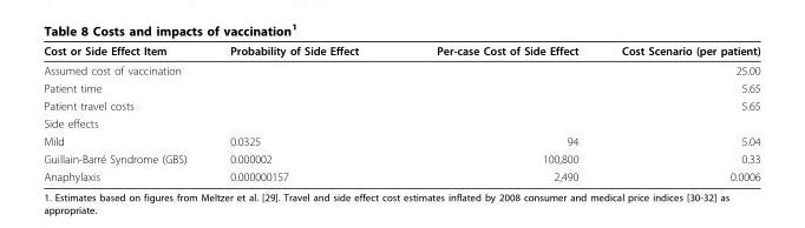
<table><thead><tr><td>Cost or Side Effect Item</td><td>Probability of Side Effect</td><td>Per-case Cost of Side Effect</td><td>Cost Scenario (per patient)</td></tr></thead><tbody><tr><td>Assumed cost of vaccination</td><td></td><td></td><td>25.00</td></tr><tr><td>Patient time</td><td></td><td></td><td>5.65</td></tr><tr><td>Patient travel costs</td><td></td><td></td><td>5.65</td></tr><tr><td colspan="4">Side effects</td></tr><tr><td>Mild</td><td>0.0325</td><td>94</td><td>5.04</td></tr><tr><td>Guillain-Barré Syndrome (GBS)</td><td>0.000002</td><td>100,800</td><td>0.33</td></tr><tr><td>Anaphylaxis</td><td>0.000000157</td><td>2,490</td><td>0.0006</td></tr></tbody></table>